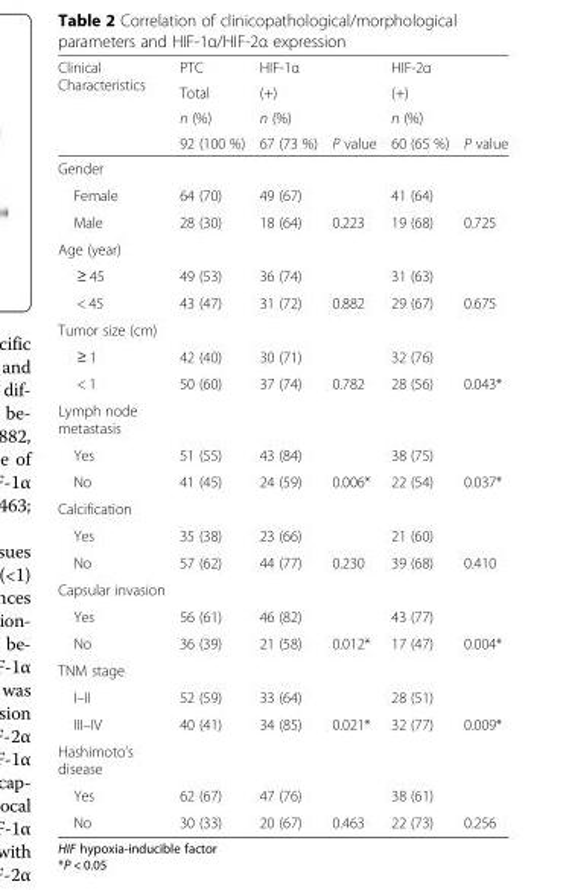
<table><thead><tr><td rowspan="4">Clinical Characteristics</td><td rowspan="4">PTC Total n (%) 92 (100 %)</td><td rowspan="4">HIF-1α (+) n (%) 67 (73 %)</td><td rowspan="4">P value</td><td rowspan="4">HIF-2α (+) n (%) 60 (65 %)</td><td rowspan="4">P value</td></tr><tr></tr><tr></tr><tr></tr></thead><tbody><tr><td colspan="6">Gender</td></tr><tr><td>Female</td><td>64 (70)</td><td>49 (67)</td><td></td><td>41 (64)</td><td></td></tr><tr><td>Male</td><td>28 (30)</td><td>18 (64)</td><td>0.223</td><td>19 (68)</td><td>0.725</td></tr><tr><td colspan="6">Age (year)</td></tr><tr><td>≥ 45</td><td>49 (53)</td><td>36 (74)</td><td></td><td>31 (63)</td><td></td></tr><tr><td>&lt; 45</td><td>43 (47)</td><td>31 (72)</td><td>0.882</td><td>29 (67)</td><td>0.675</td></tr><tr><td colspan="6">Tumor size (cm)</td></tr><tr><td>≥ 1</td><td>42 (40)</td><td>30 (71)</td><td></td><td>32 (76)</td><td></td></tr><tr><td>&lt; 1</td><td>50 (60)</td><td>37 (74)</td><td>0.782</td><td>28 (56)</td><td>0.043*</td></tr><tr><td colspan="6">Lymph node metastasis</td></tr><tr><td>Yes</td><td>51 (55)</td><td>43 (84)</td><td></td><td>38 (75)</td><td></td></tr><tr><td>No</td><td>41 (45)</td><td>24 (59)</td><td>0.006*</td><td>22 (54)</td><td>0.037*</td></tr><tr><td colspan="6">Calcification</td></tr><tr><td>Yes</td><td>35 (38)</td><td>23 (66)</td><td></td><td>21 (60)</td><td></td></tr><tr><td>No</td><td>57 (62)</td><td>44 (77)</td><td>0.230</td><td>39 (68)</td><td>0.410</td></tr><tr><td colspan="6">Capsular invasion</td></tr><tr><td>Yes</td><td>56 (61)</td><td>46 (82)</td><td></td><td>43 (77)</td><td></td></tr><tr><td>No</td><td>36 (39)</td><td>21 (58)</td><td>0.012*</td><td>17 (47)</td><td>0.004*</td></tr><tr><td colspan="6">TNM stage</td></tr><tr><td>I–II</td><td>52 (59)</td><td>33 (64)</td><td></td><td>28 (51)</td><td></td></tr><tr><td>III–IV</td><td>40 (41)</td><td>34 (85)</td><td>0.021*</td><td>32 (77)</td><td>0.009*</td></tr><tr><td colspan="6">Hashimoto’s disease</td></tr><tr><td>Yes</td><td>62 (67)</td><td>47 (76)</td><td></td><td>38 (61)</td><td></td></tr><tr><td>No</td><td>30 (33)</td><td>20 (67)</td><td>0.463</td><td>22 (73)</td><td>0.256</td></tr></tbody></table>